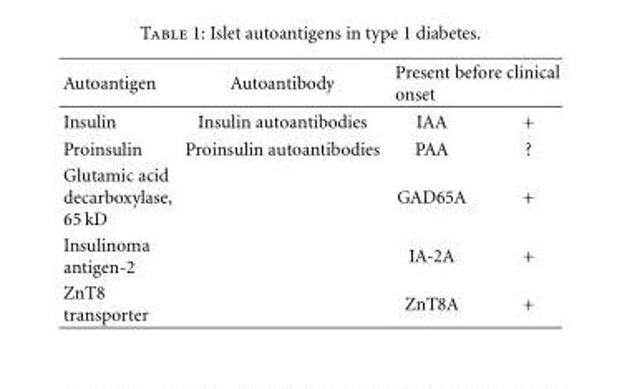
<table><thead><tr><td rowspan="2">Autoantigen Insulin</td><td rowspan="2">Autoantibody Insulin autoantibodies</td><td colspan="2">Present before clinical onset</td></tr><tr><td>IAA</td><td>+</td></tr></thead><tbody><tr><td>Proinsulin</td><td>Proinsulin autoantibodies</td><td>PAA</td><td>?</td></tr><tr><td>Glutamic acid decarboxylase, 65 kD</td><td></td><td>GAD65A</td><td>+</td></tr><tr><td>Insulinoma antigen-2</td><td></td><td>IA-2A</td><td>+</td></tr><tr><td>ZnT8 transporter</td><td></td><td>ZnT8A</td><td>+</td></tr></tbody></table>